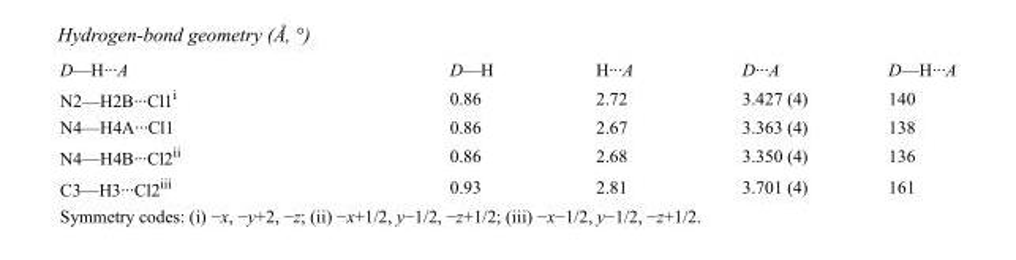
<table><tbody><tr><td>D—H···A</td><td>D—H</td><td>H···A</td><td>D···A</td><td>D—H···A</td></tr><tr><td>N2—H2B···Cl1<sup>i</sup></td><td>0.86</td><td>2.72</td><td>3.427 (4)</td><td>140</td></tr><tr><td>N4—H4A···Cl1</td><td>0.86</td><td>2.67</td><td>3.363 (4)</td><td>138</td></tr><tr><td>N4—H4B···Cl2<sup>ii</sup></td><td>0.86</td><td>2.68</td><td>3.350 (4)</td><td>136</td></tr><tr><td>C3—H3···Cl2<sup>iii</sup></td><td>0.93</td><td>2.81</td><td>3.701 (4)</td><td>161</td></tr></tbody></table>